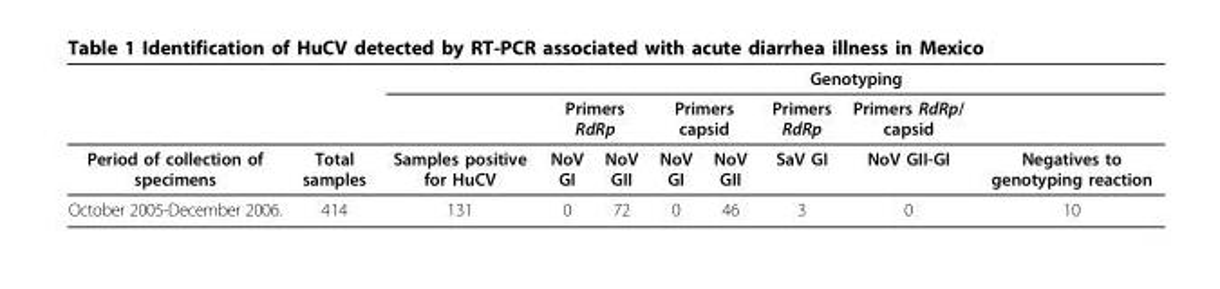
<table><thead><tr><td rowspan="3">Period of collection of specimens</td><td rowspan="3">Total samples</td><td rowspan="3">Samples positive for HuCV</td><td colspan="7">Genotyping</td></tr><tr><td colspan="2">Primers RdRp</td><td colspan="2">Primers capsid</td><td rowspan="2">Primers RdRp SaV GI</td><td rowspan="2">Primers RdRp/ capsid NoV GII-GI</td><td rowspan="2">Negatives to genotyping reaction</td></tr><tr><td>NoV GI</td><td>NoV GII</td><td>NoV GI</td><td>NoV GII</td></tr></thead><tbody><tr><td>October 2005-December 2006.</td><td>414</td><td>131</td><td>0</td><td>72</td><td>0</td><td>46</td><td>3</td><td>0</td><td>10</td></tr></tbody></table>